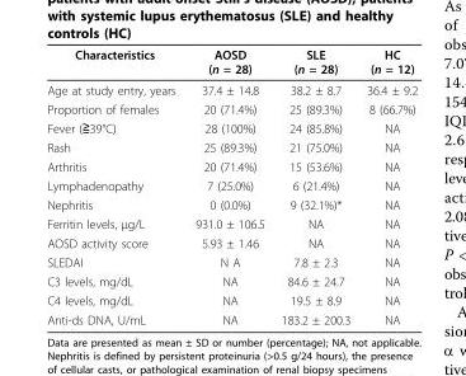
<table><thead><tr><td>Characteristics</td><td>AOSD (n = 28)</td><td>SLE (n = 28)</td><td>HC (n = 12)</td></tr></thead><tbody><tr><td>Age at study entry, years</td><td>37.4 ± 14.8</td><td>38.2 ± 8.7</td><td>36.4 ± 9.2</td></tr><tr><td>Proportion of females</td><td>20 (71.4%)</td><td>25 (89.3%)</td><td>8 (66.7%)</td></tr><tr><td>Fever (≧39°C)</td><td>28 (100%)</td><td>24 (85.8%)</td><td>NA</td></tr><tr><td>Rash</td><td>25 (89.3%)</td><td>21 (75.0%)</td><td>NA</td></tr><tr><td>Arthritis</td><td>20 (71.4%)</td><td>15 (53.6%)</td><td>NA</td></tr><tr><td>Lymphadenopathy</td><td>7 (25.0%)</td><td>6 (21.4%)</td><td>NA</td></tr><tr><td>Nephritis</td><td>0 (0.0%)</td><td>9 (32.1%)*</td><td>NA</td></tr><tr><td>Ferritin levels, μg/L</td><td>931.0 ± 106.5</td><td>NA</td><td>NA</td></tr><tr><td>AOSD activity score</td><td>5.93 ± 1.46</td><td>NA</td><td>NA</td></tr><tr><td>SLEDAI</td><td>N A</td><td>7.8 ± 2.3</td><td>NA</td></tr><tr><td>C3 levels, mg/dL</td><td>NA</td><td>84.6 ± 24.7</td><td>NA</td></tr><tr><td>C4 levels, mg/dL</td><td>NA</td><td>19.5 ± 8.9</td><td>NA</td></tr><tr><td>Anti-ds DNA, U/mL</td><td>NA</td><td>183.2 ± 200.3</td><td>NA</td></tr></tbody></table>